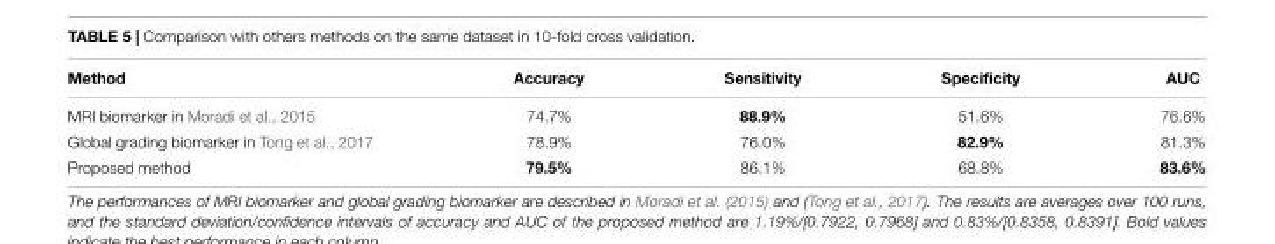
<table><thead><tr><td>Method</td><td>Accuracy</td><td>Sensitivity</td><td>Specificity</td><td>AUC</td></tr></thead><tbody><tr><td>MRI biomarker in Moradi et al., 2015</td><td>74.7%</td><td>88.9%</td><td>51.6%</td><td>76.6%</td></tr><tr><td>Global grading biomarker in Tong et al., 2017</td><td>78.9%</td><td>76.0%</td><td>82.9%</td><td>81.3%</td></tr><tr><td>Proposed method</td><td>79.5%</td><td>86.1%</td><td>68.8%</td><td>83.6%</td></tr></tbody></table>